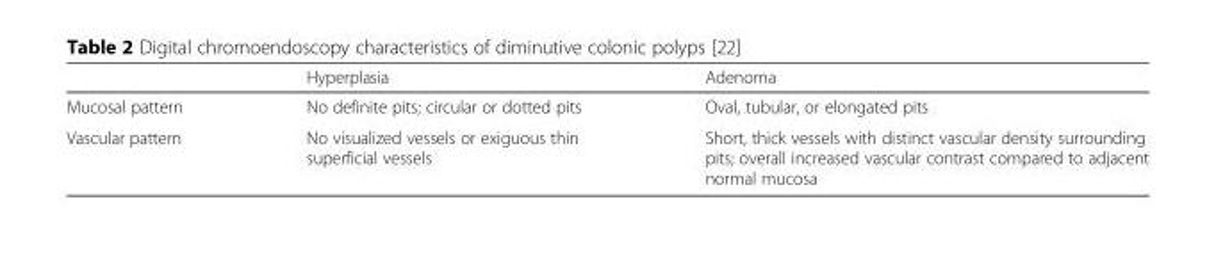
<table><thead><tr><td></td><td>Hyperplasia</td><td>Adenoma</td></tr></thead><tbody><tr><td>Mucosal pattern</td><td>No definite pits; circular or dotted pits</td><td>Oval, tubular, or elongated pits</td></tr><tr><td>Vascular pattern</td><td>No visualized vessels or exiguous thin superficial vessels</td><td>Short, thick vessels with distinct vascular density surrounding pits; overall increased vascular contrast compared to adjacent normal mucosa</td></tr></tbody></table>